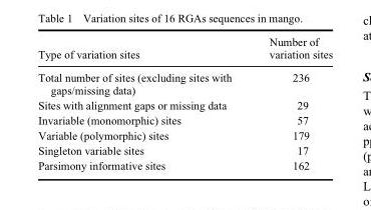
<table><thead><tr><td>Type of variation sites</td><td>Number of variation sites</td></tr></thead><tbody><tr><td>Total number of sites (excluding sites with gaps/missing data)</td><td>236</td></tr><tr><td>Sites with alignment gaps or missing data</td><td>29</td></tr><tr><td>Invariable (monomorphic) sites</td><td>57</td></tr><tr><td>Variable (polymorphic) sites</td><td>179</td></tr><tr><td>Singleton variable sites</td><td>17</td></tr><tr><td>Parsimony informative sites</td><td>162</td></tr></tbody></table>